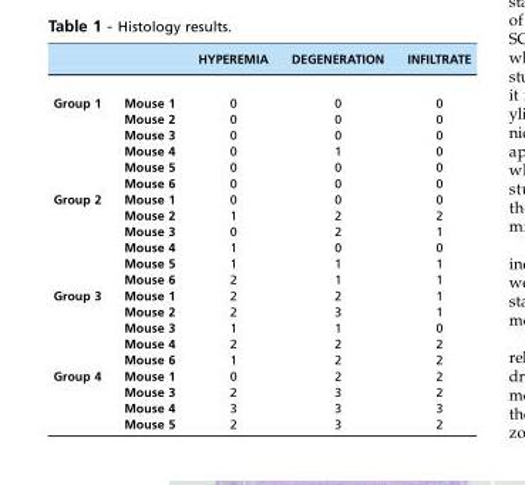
<table><thead><tr><td></td><td></td><td>HYPEREMIA</td><td>DEGENERATION</td><td>INFILTRATE</td></tr></thead><tbody><tr><td rowspan="6">Group 1</td><td>Mouse 1</td><td>0</td><td>0</td><td>0</td></tr><tr><td>Mouse 2</td><td>0</td><td>0</td><td>0</td></tr><tr><td>Mouse 3</td><td>0</td><td>0</td><td>0</td></tr><tr><td>Mouse 4</td><td>0</td><td>1</td><td>0</td></tr><tr><td>Mouse 5</td><td>0</td><td>0</td><td>0</td></tr><tr><td>Mouse 6</td><td>0</td><td>0</td><td>0</td></tr><tr><td rowspan="6">Group 2</td><td>Mouse 1</td><td>0</td><td>0</td><td>0</td></tr><tr><td>Mouse 2</td><td>1</td><td>2</td><td>2</td></tr><tr><td>Mouse 3</td><td>0</td><td>2</td><td>1</td></tr><tr><td>Mouse 4</td><td>1</td><td>0</td><td>0</td></tr><tr><td>Mouse 5</td><td>1</td><td>1</td><td>1</td></tr><tr><td>Mouse 6</td><td>2</td><td>1</td><td>1</td></tr><tr><td rowspan="5">Group 3</td><td>Mouse 1</td><td>2</td><td>2</td><td>1</td></tr><tr><td>Mouse 2</td><td>2</td><td>3</td><td>1</td></tr><tr><td>Mouse 3</td><td>1</td><td>1</td><td>0</td></tr><tr><td>Mouse 4</td><td>2</td><td>2</td><td>2</td></tr><tr><td>Mouse 6</td><td>1</td><td>2</td><td>2</td></tr><tr><td rowspan="4">Group 4</td><td>Mouse 1</td><td>0</td><td>2</td><td>2</td></tr><tr><td>Mouse 3</td><td>2</td><td>3</td><td>2</td></tr><tr><td>Mouse 4</td><td>3</td><td>3</td><td>3</td></tr><tr><td>Mouse 5</td><td>2</td><td>3</td><td>2</td></tr></tbody></table>